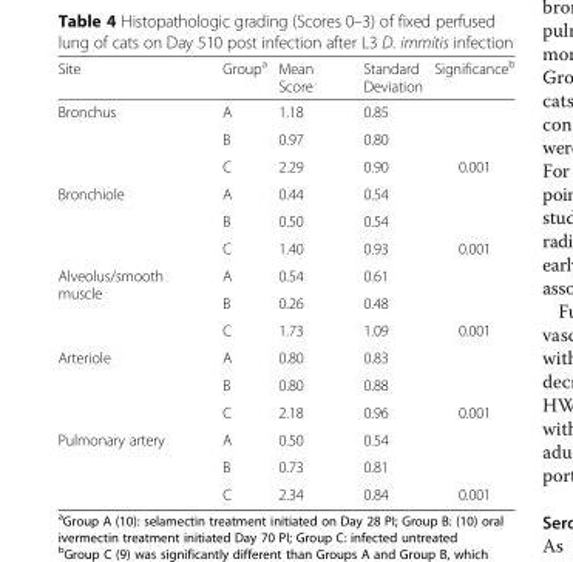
<table><thead><tr><td>Site</td><td>Group<sup>a</sup></td><td>Mean Score</td><td>Standard Deviation</td><td>Significance<sup>b</sup></td></tr></thead><tbody><tr><td rowspan="3">Bronchus</td><td>A</td><td>1.18</td><td>0.85</td><td></td></tr><tr><td>B</td><td>0.97</td><td>0.80</td><td></td></tr><tr><td>C</td><td>2.29</td><td>0.90</td><td>0.001</td></tr><tr><td rowspan="3">Bronchiole</td><td>A</td><td>0.44</td><td>0.54</td><td></td></tr><tr><td>B</td><td>0.50</td><td>0.54</td><td></td></tr><tr><td>C</td><td>1.40</td><td>0.93</td><td>0.001</td></tr><tr><td rowspan="3">Alveolus/smooth muscle</td><td>A</td><td>0.54</td><td>0.61</td><td></td></tr><tr><td>B</td><td>0.26</td><td>0.48</td><td></td></tr><tr><td>C</td><td>1.73</td><td>1.09</td><td>0.001</td></tr><tr><td rowspan="3">Arteriole</td><td>A</td><td>0.80</td><td>0.83</td><td></td></tr><tr><td>B</td><td>0.80</td><td>0.88</td><td></td></tr><tr><td>C</td><td>2.18</td><td>0.96</td><td>0.001</td></tr><tr><td rowspan="3">Pulmonary artery</td><td>A</td><td>0.50</td><td>0.54</td><td></td></tr><tr><td>B</td><td>0.73</td><td>0.81</td><td></td></tr><tr><td>C</td><td>2.34</td><td>0.84</td><td>0.001</td></tr></tbody></table>